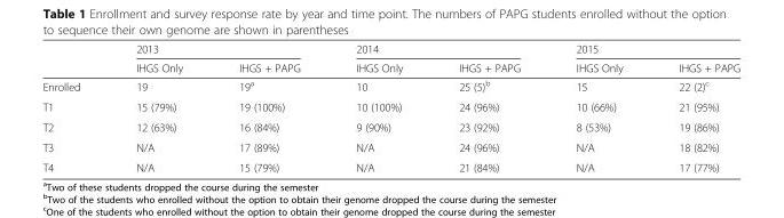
<table><thead><tr><td rowspan="2"></td><td colspan="2">2013</td><td colspan="2">2014</td><td colspan="2">2015</td></tr><tr><td>IHGS Only</td><td>IHGS + PAPG</td><td>IHGS Only</td><td>IHGS + PAPG</td><td>IHGS Only</td><td>IHGS + PAPG</td></tr></thead><tbody><tr><td>Enrolled</td><td>19</td><td>19<sup>a</sup></td><td>10</td><td>25 (5)<sup>b</sup></td><td>15</td><td>22 (2)<sup>c</sup></td></tr><tr><td>T1</td><td>15 (79%)</td><td>19 (100%)</td><td>10 (100%)</td><td>24 (96%)</td><td>10 (66%)</td><td>21 (95%)</td></tr><tr><td>T2</td><td>12 (63%)</td><td>16 (84%)</td><td>9 (90%)</td><td>23 (92%)</td><td>8 (53%)</td><td>19 (86%)</td></tr><tr><td>T3</td><td>N/A</td><td>17 (89%)</td><td>N/A</td><td>24 (96%)</td><td>N/A</td><td>18 (82%)</td></tr><tr><td>T4</td><td>N/A</td><td>15 (79%)</td><td>N/A</td><td>21 (84%)</td><td>N/A</td><td>17 (77%)</td></tr></tbody></table>